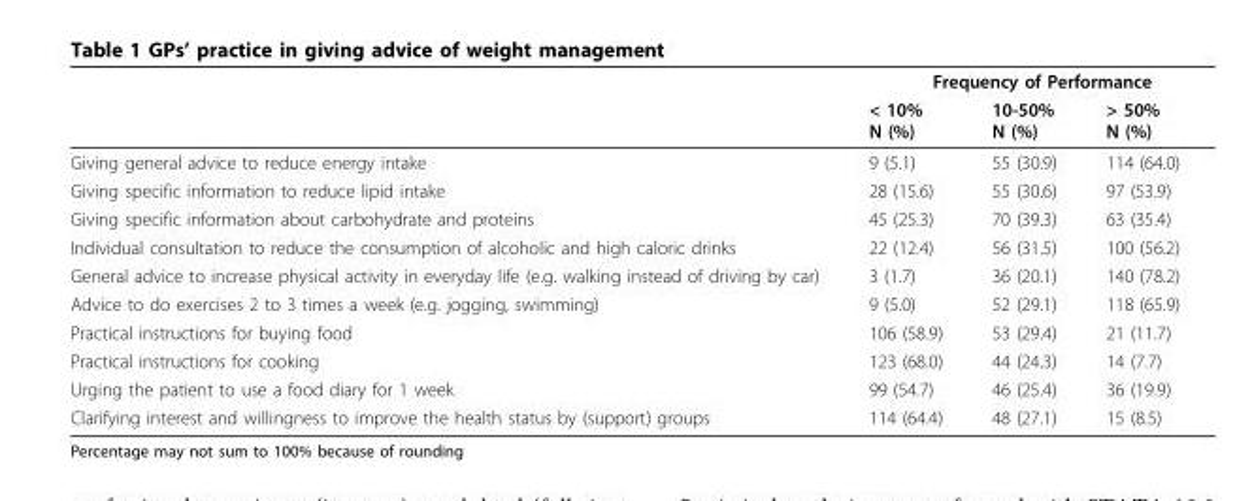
<table><thead><tr><td rowspan="2"></td><td colspan="3">Frequency of Performance</td></tr><tr><td>&lt; 10% N (%)</td><td>10-50% N (%)</td><td>&gt; 50% N (%)</td></tr></thead><tbody><tr><td>Giving general advice to reduce energy intake</td><td>9 (5.1)</td><td>55 (30.9)</td><td>114 (64.0)</td></tr><tr><td>Giving specific information to reduce lipid intake</td><td>28 (15.6)</td><td>55 (30.6)</td><td>97 (53.9)</td></tr><tr><td>Giving specific information about carbohydrate and proteins</td><td>45 (25.3)</td><td>70 (39.3)</td><td>63 (35.4)</td></tr><tr><td>Individual consultation to reduce the consumption of alcoholic and high caloric drinks</td><td>22 (12.4)</td><td>56 (31.5)</td><td>100 (56.2)</td></tr><tr><td>General advice to increase physical activity in everyday life (e.g. walking instead of driving by car)</td><td>3 (1.7)</td><td>36 (20.1)</td><td>140 (78.2)</td></tr><tr><td>Advice to do exercises 2 to 3 times a week (e.g. jogging, swimming)</td><td>9 (5.0)</td><td>52 (29.1)</td><td>118 (65.9)</td></tr><tr><td>Practical instructions for buying food</td><td>106 (58.9)</td><td>53 (29.4)</td><td>21 (11.7)</td></tr><tr><td>Practical instructions for cooking</td><td>123 (68.0)</td><td>44 (24.3)</td><td>14 (7.7)</td></tr><tr><td>Urging the patient to use a food diary for 1 week</td><td>99 (54.7)</td><td>46 (25.4)</td><td>36 (19.9)</td></tr><tr><td>Clarifying interest and willingness to improve the health status by (support) groups</td><td>114 (64.4)</td><td>48 (27.1)</td><td>15 (8.5)</td></tr></tbody></table>